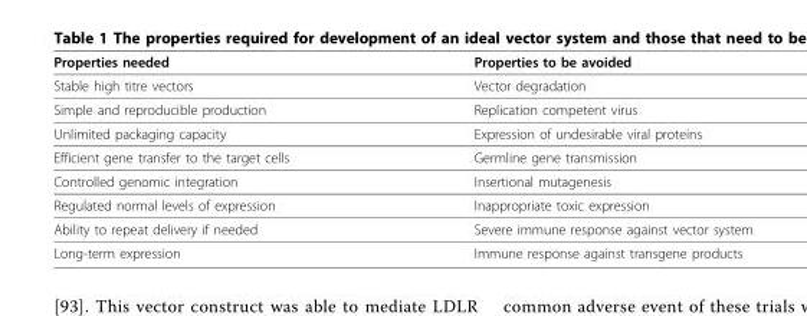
<table><thead><tr><td>Properties needed</td><td>Properties to be avoided</td></tr></thead><tbody><tr><td>Stable high titre vectors</td><td>Vector degradation</td></tr><tr><td>Simple and reproducible production</td><td>Replication competent virus</td></tr><tr><td>Unlimited packaging capacity</td><td>Expression of undesirable viral proteins</td></tr><tr><td>Efficient gene transfer to the target cells</td><td>Germline gene transmission</td></tr><tr><td>Controlled genomic integration</td><td>Insertional mutagenesis</td></tr><tr><td>Regulated normal levels of expression</td><td>Inappropriate toxic expression</td></tr><tr><td>Ability to repeat delivery if needed</td><td>Severe immune response against vector system</td></tr><tr><td>Long-term expression</td><td>Immune response against transgene products</td></tr></tbody></table>